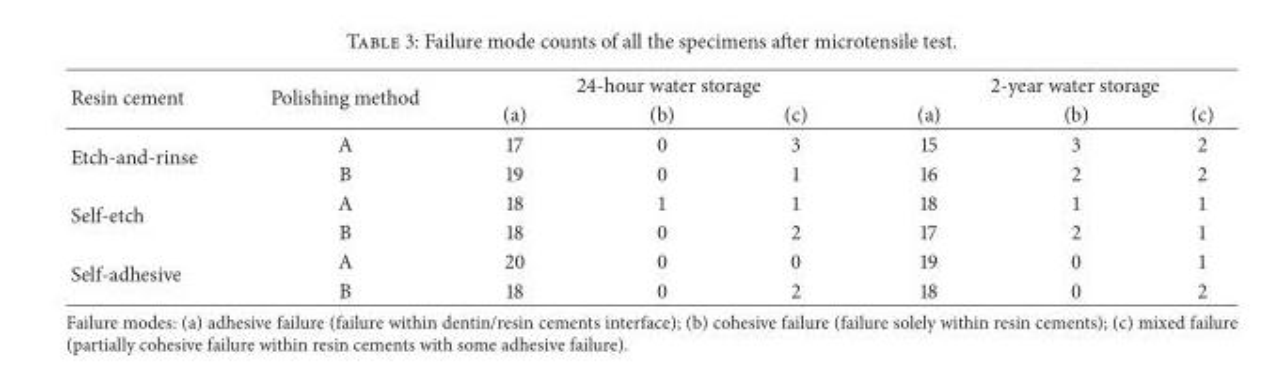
<table><thead><tr><td rowspan="2">Resin cement</td><td rowspan="2">Polishing method</td><td colspan="3">24-hour water storage</td><td colspan="3">2-year water storage</td></tr><tr><td>(a)</td><td>(b)</td><td>(c)</td><td>(a)</td><td>(b)</td><td>(c)</td></tr></thead><tbody><tr><td rowspan="2">Etch-and-rinse</td><td>A</td><td>17</td><td>0</td><td>3</td><td>15</td><td>3</td><td>2</td></tr><tr><td>B</td><td>19</td><td>0</td><td>1</td><td>16</td><td>2</td><td>2</td></tr><tr><td rowspan="2">Self-etch</td><td>A</td><td>18</td><td>1</td><td>1</td><td>18</td><td>1</td><td>1</td></tr><tr><td>B</td><td>18</td><td>0</td><td>2</td><td>17</td><td>2</td><td>1</td></tr><tr><td rowspan="2">Self-adhesive</td><td>A</td><td>20</td><td>0</td><td>0</td><td>19</td><td>0</td><td>1</td></tr><tr><td>B</td><td>18</td><td>0</td><td>2</td><td>18</td><td>0</td><td>2</td></tr></tbody></table>